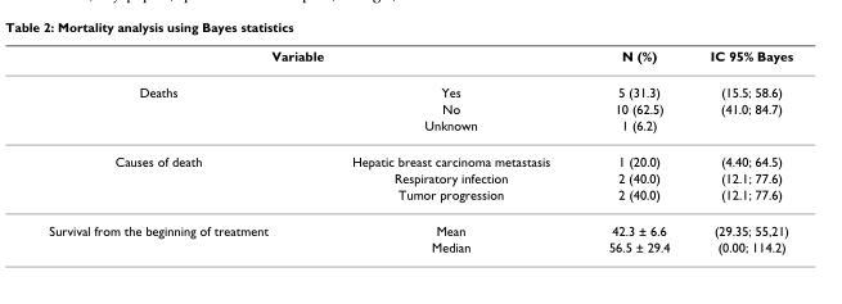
<table><thead><tr><td colspan="2">Variable</td><td rowspan="2">N (%) 5 (31.3)</td><td rowspan="2">IC 95% Bayes (15.5; 58.6)</td></tr><tr><td>Deaths</td><td>Yes</td></tr></thead><tbody><tr><td></td><td>No</td><td>10 (62.5)</td><td>(41.0; 84.7)</td></tr><tr><td></td><td>Unknown</td><td>1 (6.2)</td><td></td></tr><tr><td rowspan="3">Causes of death</td><td>Hepatic breast carcinoma metastasis</td><td>1 (20.0)</td><td>(4.40; 64.5)</td></tr><tr><td>Respiratory infection</td><td>2 (40.0)</td><td>(12.1; 77.6)</td></tr><tr><td>Tumor progression</td><td>2 (40.0)</td><td>(12.1; 77.6)</td></tr><tr><td rowspan="2">Survival from the beginning of treatment</td><td>Mean</td><td>42.3 ± 6.6</td><td>(29.35; 55,21)</td></tr><tr><td>Median</td><td>56.5 ± 29.4</td><td>(0.00; 114.2)</td></tr></tbody></table>